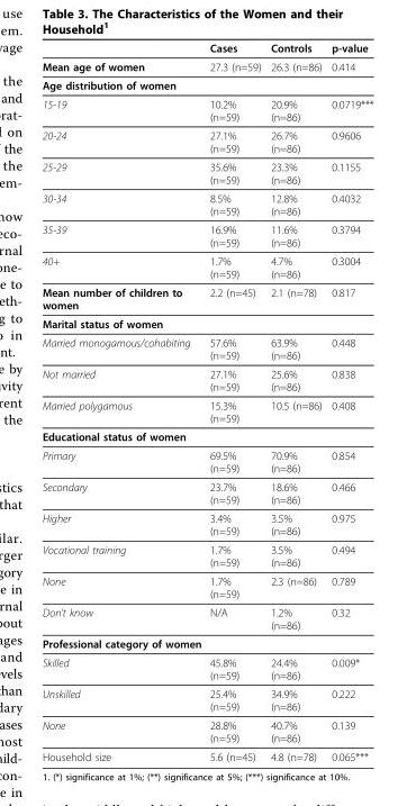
<table><thead><tr><td></td><td>Cases</td><td>Controls</td><td>p-value</td></tr></thead><tbody><tr><td>Mean age of women</td><td>27.3 (n=59)</td><td>26.3 (n=86)</td><td>0.414</td></tr><tr><td colspan="4">Age distribution of women</td></tr><tr><td>15-19</td><td>10.2% (n=59)</td><td>20.9% (n=86)</td><td>0.0719***</td></tr><tr><td>20-24</td><td>27.1% (n=59)</td><td>26.7% (n=86)</td><td>0.9606</td></tr><tr><td>25-29</td><td>35.6% (n=59)</td><td>23.3% (n=86)</td><td>0.1155</td></tr><tr><td>30-34</td><td>8.5% (n=59)</td><td>12.8% (n=86)</td><td>0.4032</td></tr><tr><td>35-39</td><td>16.9% (n=59)</td><td>11.6% (n=86)</td><td>0.3794</td></tr><tr><td>40+</td><td>1.7% (n=59)</td><td>4.7% (n=86)</td><td>0.3004</td></tr><tr><td>Mean number of children to women</td><td>2.2 (n=45)</td><td>2.1 (n=78)</td><td>0.817</td></tr><tr><td colspan="4">Marital status of women</td></tr><tr><td>Married monogamous/cohabiting</td><td>57.6% (n=59)</td><td>63.9% (n=86)</td><td>0.448</td></tr><tr><td>Not married</td><td>27.1% (n=59)</td><td>25.6% (n=86)</td><td>0.838</td></tr><tr><td>Married polygamous</td><td>15.3% (n=59)</td><td>10.5 (n=86)</td><td>0.408</td></tr><tr><td colspan="4">Educational status of women</td></tr><tr><td>Primary</td><td>69.5% (n=59)</td><td>70.9% (n=86)</td><td>0.854</td></tr><tr><td>Secondary</td><td>23.7% (n=59)</td><td>18.6% (n=86)</td><td>0.466</td></tr><tr><td>Higher</td><td>3.4% (n=59)</td><td>3.5% (n=86)</td><td>0.975</td></tr><tr><td>Vocational training</td><td>1.7% (n=59)</td><td>3.5% (n=86)</td><td>0.494</td></tr><tr><td>None</td><td>1.7% (n=59)</td><td>2.3 (n=86)</td><td>0.789</td></tr><tr><td>Don’t know</td><td>N/A</td><td>1.2% (n=86)</td><td>0.32</td></tr><tr><td colspan="4">Professional category of women</td></tr><tr><td>Skilled</td><td>45.8% (n=59)</td><td>24.4% (n=86)</td><td>0.009*</td></tr><tr><td>Unskilled</td><td>25.4% (n=59)</td><td>34.9% (n=86)</td><td>0.222</td></tr><tr><td>None</td><td>28.8% (n=59)</td><td>40.7% (n=86)</td><td>0.139</td></tr><tr><td>Household size</td><td>5.6 (n=45)</td><td>4.8 (n=78)</td><td>0.065***</td></tr></tbody></table>